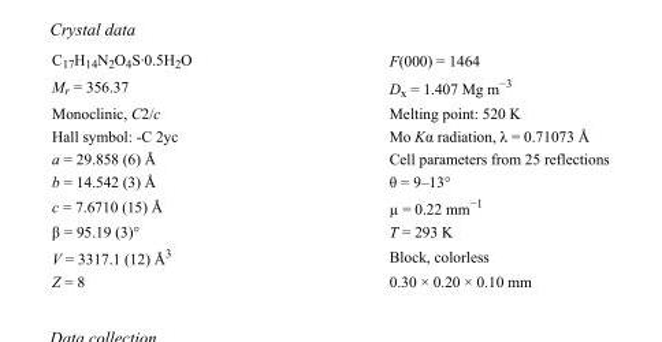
<table><tbody><tr><td>C<sub>17</sub>H<sub>14</sub>N<sub>2</sub>O<sub>4</sub>S·0.5H<sub>2</sub>O</td><td>F(000) = 1464</td></tr><tr><td>M<sub>r</sub> = 356.37</td><td>D<sub>x</sub> = 1.407 Mg m<sup>−3</sup></td></tr><tr><td>Monoclinic, C2/c</td><td>Melting point: 520 K</td></tr><tr><td>Hall symbol: -C 2yc</td><td>Mo Kα radiation, λ = 0.71073 Å</td></tr><tr><td>a = 29.858 (6) Å</td><td>Cell parameters from 25 reflections</td></tr><tr><td>b = 14.542 (3) Å</td><td>θ = 9–13°</td></tr><tr><td>c = 7.6710 (15) Å</td><td>µ = 0.22 mm<sup>−1</sup></td></tr><tr><td>β = 95.19 (3)°</td><td>T = 293 K</td></tr><tr><td>V = 3317.1 (12) Å<sup>3</sup></td><td>Block, colorless</td></tr><tr><td>Z = 8</td><td>0.30 × 0.20 × 0.10 mm</td></tr></tbody></table>